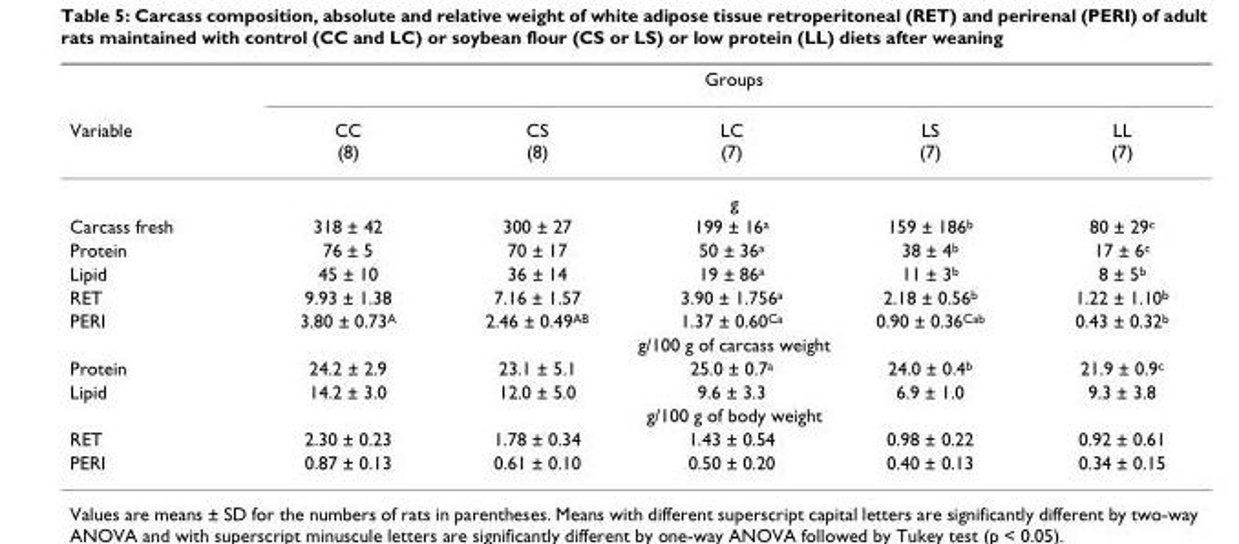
<table><thead><tr><td rowspan="2">Variable</td><td colspan="5">Groups</td></tr><tr><td>CC (8)</td><td>CS (8)</td><td>LC (7)</td><td>LS (7)</td><td>LL (7)</td></tr></thead><tbody><tr><td></td><td colspan="5">g</td></tr><tr><td>Carcass fresh</td><td>318 ± 42</td><td>300 ± 27</td><td>199 ± 16<sup>a</sup></td><td>159 ± 186<sup>b</sup></td><td>80 ± 29<sup>c</sup></td></tr><tr><td>Protein</td><td>76 ± 5</td><td>70 ± 17</td><td>50 ± 36<sup>a</sup></td><td>38 ± 4<sup>b</sup></td><td>17 ± 6<sup>c</sup></td></tr><tr><td>Lipid</td><td>45 ± 10</td><td>36 ± 14</td><td>19 ± 86<sup>a</sup></td><td>11 ± 3<sup>b</sup></td><td>8 ± 5<sup>b</sup></td></tr><tr><td>RET</td><td>9.93 ± 1.38</td><td>7.16 ± 1.57</td><td>3.90 ± 1.756<sup>a</sup></td><td>2.18 ± 0.56<sup>b</sup></td><td>1.22 ± 1.10<sup>b</sup></td></tr><tr><td rowspan="2">PERI</td><td>3.80 ± 0.73<sup>A</sup></td><td>2.46 ± 0.49<sup>AB</sup></td><td>1.37 ± 0.60<sup>Ca</sup></td><td>0.90 ± 0.36<sup>Cab</sup></td><td>0.43 ± 0.32<sup>b</sup></td></tr><tr><td colspan="5">g/100 g of carcass weight</td></tr><tr><td>Protein</td><td>24.2 ± 2.9</td><td>23.1 ± 5.1</td><td>25.0 ± 0.7<sup>a</sup></td><td>24.0 ± 0.4<sup>b</sup></td><td>21.9 ± 0.9<sup>c</sup></td></tr><tr><td rowspan="2">Lipid</td><td>14.2 ± 3.0</td><td>12.0 ± 5.0</td><td>9.6 ± 3.3</td><td>6.9 ± 1.0</td><td>9.3 ± 3.8</td></tr><tr><td colspan="5">g/100 g of body weight</td></tr><tr><td>RET</td><td>2.30 ± 0.23</td><td>1.78 ± 0.34</td><td>1.43 ± 0.54</td><td>0.98 ± 0.22</td><td>0.92 ± 0.61</td></tr><tr><td>PERI</td><td>0.87 ± 0.13</td><td>0.61 ± 0.10</td><td>0.50 ± 0.20</td><td>0.40 ± 0.13</td><td>0.34 ± 0.15</td></tr></tbody></table>